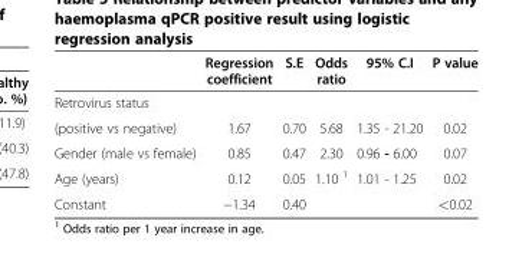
<table><thead><tr><td></td><td>Regression coefficient</td><td>S.E</td><td>Odds ratio</td><td>95% C.I</td><td>P value</td></tr></thead><tbody><tr><td colspan="6">Retrovirus status</td></tr><tr><td>(positive vs negative)</td><td>1.67</td><td>0.70</td><td>5.68</td><td>1.35 - 21.20</td><td>0.02</td></tr><tr><td>Gender (male vs female)</td><td>0.85</td><td>0.47</td><td>2.30</td><td>0.96 - 6.00</td><td>0.07</td></tr><tr><td>Age (years)</td><td>0.12</td><td>0.05</td><td>1.10 <sup>1</sup></td><td>1.01 - 1.25</td><td>0.02</td></tr><tr><td>Constant</td><td>−1.34</td><td>0.40</td><td></td><td></td><td>&lt;0.02</td></tr></tbody></table>